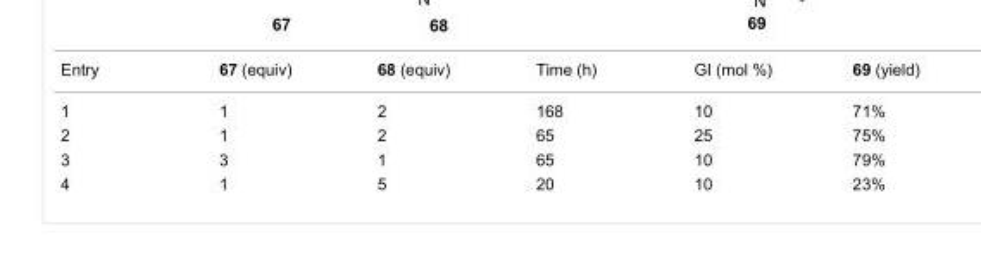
<table><tbody><tr><td>Entry</td><td>67 (equiv)</td><td>68 (equiv)</td><td>Time (h)</td><td>GI (mol %)</td><td>69 (yield)</td></tr><tr><td>1</td><td>1</td><td>2</td><td>168</td><td>10</td><td>71%</td></tr><tr><td>2</td><td>1</td><td>2</td><td>65</td><td>25</td><td>75%</td></tr><tr><td>3</td><td>3</td><td>1</td><td>65</td><td>10</td><td>79%</td></tr><tr><td>4</td><td>1</td><td>5</td><td>20</td><td>10</td><td>23%</td></tr></tbody></table>